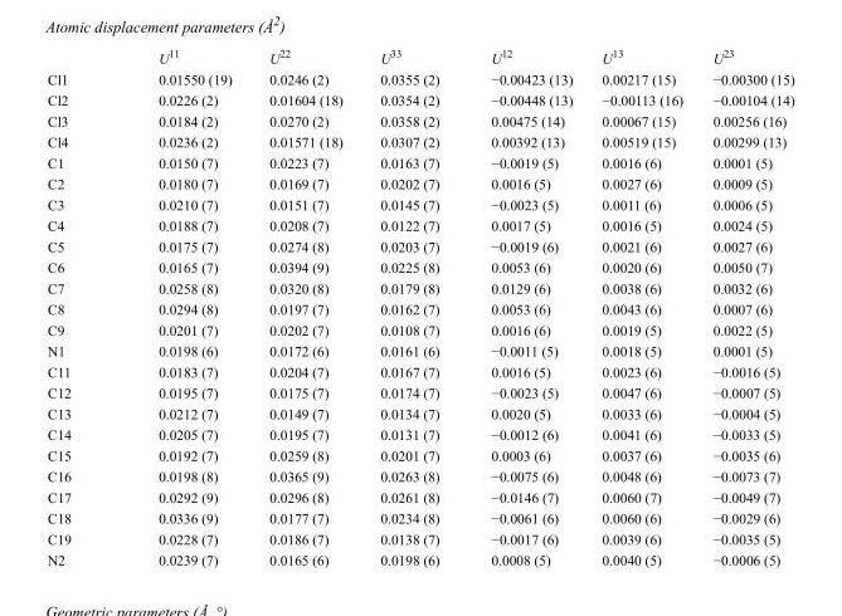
<table><thead><tr><td></td><td>U<sup>11</sup></td><td>U<sup>22</sup></td><td>U<sup>33</sup></td><td>U<sup>12</sup></td><td>U<sup>13</sup></td><td>U<sup>23</sup></td></tr></thead><tbody><tr><td>Cl1</td><td>0.01550 (19)</td><td>0.0246 (2)</td><td>0.0355 (2)</td><td>−0.00423 (13)</td><td>0.00217 (15)</td><td>−0.00300 (15)</td></tr><tr><td>Cl2</td><td>0.0226 (2)</td><td>0.01604 (18)</td><td>0.0354 (2)</td><td>−0.00448 (13)</td><td>−0.00113 (16)</td><td>−0.00104 (14)</td></tr><tr><td>Cl3</td><td>0.0184 (2)</td><td>0.0270 (2)</td><td>0.0358 (2)</td><td>0.00475 (14)</td><td>0.00067 (15)</td><td>0.00256 (16)</td></tr><tr><td>Cl4</td><td>0.0236 (2)</td><td>0.01571 (18)</td><td>0.0307 (2)</td><td>0.00392 (13)</td><td>0.00519 (15)</td><td>0.00299 (13)</td></tr><tr><td>C1</td><td>0.0150 (7)</td><td>0.0223 (7)</td><td>0.0163 (7)</td><td>−0.0019 (5)</td><td>0.0016 (6)</td><td>0.0001 (5)</td></tr><tr><td>C2</td><td>0.0180 (7)</td><td>0.0169 (7)</td><td>0.0202 (7)</td><td>0.0016 (5)</td><td>0.0027 (6)</td><td>0.0009 (5)</td></tr><tr><td>C3</td><td>0.0210 (7)</td><td>0.0151 (7)</td><td>0.0145 (7)</td><td>−0.0023 (5)</td><td>0.0011 (6)</td><td>0.0006 (5)</td></tr><tr><td>C4</td><td>0.0188 (7)</td><td>0.0208 (7)</td><td>0.0122 (7)</td><td>0.0017 (5)</td><td>0.0016 (5)</td><td>0.0024 (5)</td></tr><tr><td>C5</td><td>0.0175 (7)</td><td>0.0274 (8)</td><td>0.0203 (7)</td><td>−0.0019 (6)</td><td>0.0021 (6)</td><td>0.0027 (6)</td></tr><tr><td>C6</td><td>0.0165 (7)</td><td>0.0394 (9)</td><td>0.0225 (8)</td><td>0.0053 (6)</td><td>0.0020 (6)</td><td>0.0050 (7)</td></tr><tr><td>C7</td><td>0.0258 (8)</td><td>0.0320 (8)</td><td>0.0179 (8)</td><td>0.0129 (6)</td><td>0.0038 (6)</td><td>0.0032 (6)</td></tr><tr><td>C8</td><td>0.0294 (8)</td><td>0.0197 (7)</td><td>0.0162 (7)</td><td>0.0053 (6)</td><td>0.0043 (6)</td><td>0.0007 (6)</td></tr><tr><td>C9</td><td>0.0201 (7)</td><td>0.0202 (7)</td><td>0.0108 (7)</td><td>0.0016 (6)</td><td>0.0019 (5)</td><td>0.0022 (5)</td></tr><tr><td>N1</td><td>0.0198 (6)</td><td>0.0172 (6)</td><td>0.0161 (6)</td><td>−0.0011 (5)</td><td>0.0018 (5)</td><td>0.0001 (5)</td></tr><tr><td>C11</td><td>0.0183 (7)</td><td>0.0204 (7)</td><td>0.0167 (7)</td><td>0.0016 (5)</td><td>0.0023 (6)</td><td>−0.0016 (5)</td></tr><tr><td>C12</td><td>0.0195 (7)</td><td>0.0175 (7)</td><td>0.0174 (7)</td><td>−0.0023 (5)</td><td>0.0047 (6)</td><td>−0.0007 (5)</td></tr><tr><td>C13</td><td>0.0212 (7)</td><td>0.0149 (7)</td><td>0.0134 (7)</td><td>0.0020 (5)</td><td>0.0033 (6)</td><td>−0.0004 (5)</td></tr><tr><td>C14</td><td>0.0205 (7)</td><td>0.0195 (7)</td><td>0.0131 (7)</td><td>−0.0012 (6)</td><td>0.0041 (6)</td><td>−0.0033 (5)</td></tr><tr><td>C15</td><td>0.0192 (7)</td><td>0.0259 (8)</td><td>0.0201 (7)</td><td>0.0003 (6)</td><td>0.0037 (6)</td><td>−0.0035 (6)</td></tr><tr><td>C16</td><td>0.0198 (8)</td><td>0.0365 (9)</td><td>0.0263 (8)</td><td>−0.0075 (6)</td><td>0.0048 (6)</td><td>−0.0073 (7)</td></tr><tr><td>C17</td><td>0.0292 (9)</td><td>0.0296 (8)</td><td>0.0261 (8)</td><td>−0.0146 (7)</td><td>0.0060 (7)</td><td>−0.0049 (7)</td></tr><tr><td>C18</td><td>0.0336 (9)</td><td>0.0177 (7)</td><td>0.0234 (8)</td><td>−0.0061 (6)</td><td>0.0060 (6)</td><td>−0.0029 (6)</td></tr><tr><td>C19</td><td>0.0228 (7)</td><td>0.0186 (7)</td><td>0.0138 (7)</td><td>−0.0017 (6)</td><td>0.0039 (6)</td><td>−0.0035 (5)</td></tr><tr><td>N2</td><td>0.0239 (7)</td><td>0.0165 (6)</td><td>0.0198 (6)</td><td>0.0008 (5)</td><td>0.0040 (5)</td><td>−0.0006 (5)</td></tr></tbody></table>